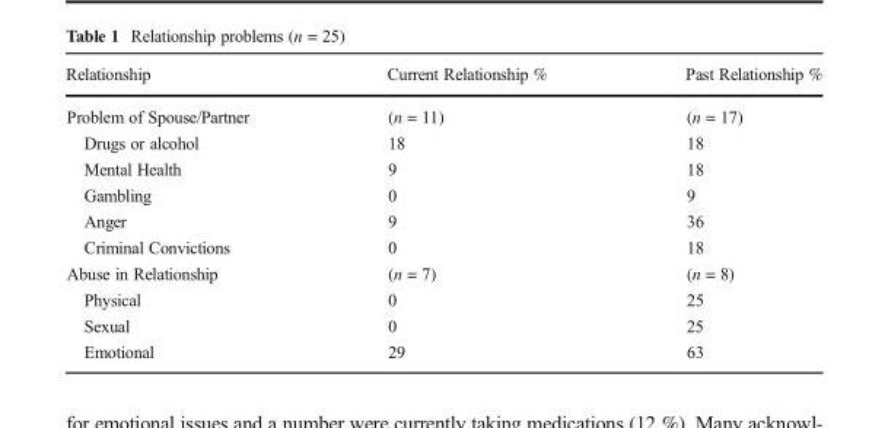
<table><thead><tr><td>Relationship</td><td>Current Relationship %</td><td>Past Relationship %</td></tr></thead><tbody><tr><td>Problem of Spouse/Partner</td><td>(n = 11)</td><td>(n = 17)</td></tr><tr><td>Drugs or alcohol</td><td>18</td><td>18</td></tr><tr><td>Mental Health</td><td>9</td><td>18</td></tr><tr><td>Gambling</td><td>0</td><td>9</td></tr><tr><td>Anger</td><td>9</td><td>36</td></tr><tr><td>Criminal Convictions</td><td>0</td><td>18</td></tr><tr><td>Abuse in Relationship</td><td>(n = 7)</td><td>(n = 8)</td></tr><tr><td>Physical</td><td>0</td><td>25</td></tr><tr><td>Sexual</td><td>0</td><td>25</td></tr><tr><td>Emotional</td><td>29</td><td>63</td></tr></tbody></table>